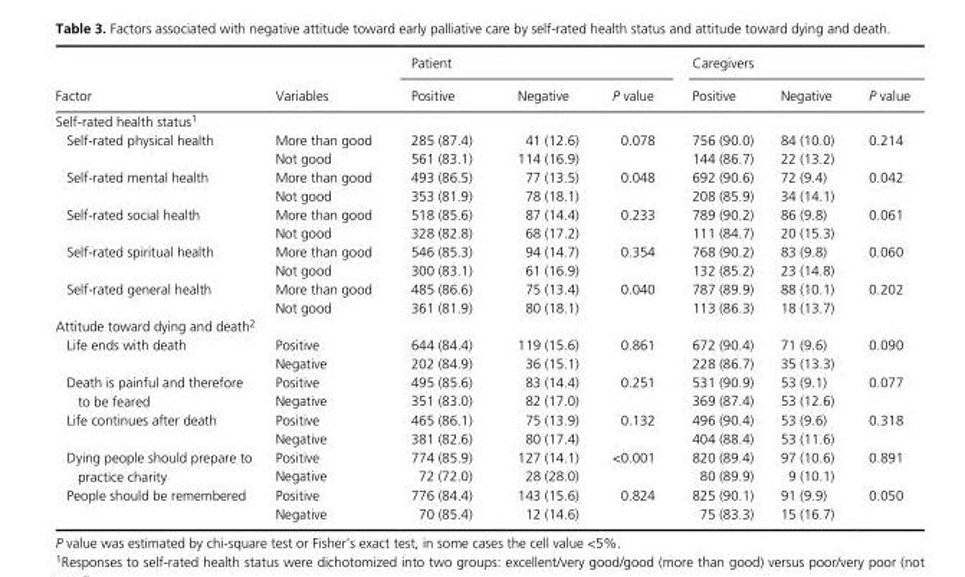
<table><thead><tr><td rowspan="2">Factor</td><td rowspan="2">Variables</td><td colspan="3">Patient</td><td colspan="3">Caregivers</td></tr><tr><td>Positive</td><td>Negative</td><td>P value</td><td>Positive</td><td>Negative</td><td>P value</td></tr></thead><tbody><tr><td colspan="8">Self- rated health status1</td></tr><tr><td rowspan="2">Self- rated physical health</td><td>More than good</td><td>285 (87.4)</td><td>41 (12.6)</td><td>0.078</td><td>756 (90.0)</td><td>84 (10.0)</td><td>0.214</td></tr><tr><td>Not good</td><td>561 (83.1)</td><td>114 (16.9)</td><td></td><td>144 (86.7)</td><td>22 (13.2)</td><td></td></tr><tr><td rowspan="2">Self- rated mental health</td><td>More than good</td><td>493 (86.5)</td><td>77 (13.5)</td><td>0.048</td><td>692 (90.6)</td><td>72 (9.4)</td><td>0.042</td></tr><tr><td>Not good</td><td>353 (81.9)</td><td>78 (18.1)</td><td></td><td>208 (85.9)</td><td>34 (14.1)</td><td></td></tr><tr><td rowspan="2">Self- rated social health</td><td>More than good</td><td>518 (85.6)</td><td>87 (14.4)</td><td>0.233</td><td>789 (90.2)</td><td>86 (9.8)</td><td>0.061</td></tr><tr><td>Not good</td><td>328 (82.8)</td><td>68 (17.2)</td><td></td><td>111 (84.7)</td><td>20 (15.3)</td><td></td></tr><tr><td rowspan="2">Self- rated spiritual health</td><td>More than good</td><td>546 (85.3)</td><td>94 (14.7)</td><td>0.354</td><td>768 (90.2)</td><td>83 (9.8)</td><td>0.060</td></tr><tr><td>Not good</td><td>300 (83.1)</td><td>61 (16.9)</td><td></td><td>132 (85.2)</td><td>23 (14.8)</td><td></td></tr><tr><td rowspan="2">Self- rated general health</td><td>More than good</td><td>485 (86.6)</td><td>75 (13.4)</td><td>0.040</td><td>787 (89.9)</td><td>88 (10.1)</td><td>0.202</td></tr><tr><td>Not good</td><td>361 (81.9)</td><td>80 (18.1)</td><td></td><td>113 (86.3)</td><td>18 (13.7)</td><td></td></tr><tr><td colspan="8">Attitude toward dying and death2</td></tr><tr><td rowspan="2">Life ends with death</td><td>Positive</td><td>644 (84.4)</td><td>119 (15.6)</td><td>0.861</td><td>672 (90.4)</td><td>71 (9.6)</td><td>0.090</td></tr><tr><td>Negative</td><td>202 (84.9)</td><td>36 (15.1)</td><td></td><td>228 (86.7)</td><td>35 (13.3)</td><td></td></tr><tr><td rowspan="2">Death is painful and therefore to be feared</td><td>Positive</td><td>495 (85.6)</td><td>83 (14.4)</td><td>0.251</td><td>531 (90.9)</td><td>53 (9.1)</td><td>0.077</td></tr><tr><td>Negative</td><td>351 (83.0)</td><td>82 (17.0)</td><td></td><td>369 (87.4)</td><td>53 (12.6)</td><td></td></tr><tr><td rowspan="2">Life continues after death</td><td>Positive</td><td>465 (86.1)</td><td>75 (13.9)</td><td>0.132</td><td>496 (90.4)</td><td>53 (9.6)</td><td>0.318</td></tr><tr><td>Negative</td><td>381 (82.6)</td><td>80 (17.4)</td><td></td><td>404 (88.4)</td><td>53 (11.6)</td><td></td></tr><tr><td rowspan="2">Dying people should prepare to practice charity</td><td>Positive</td><td>774 (85.9)</td><td>127 (14.1)</td><td>&lt;0.001</td><td>820 (89.4)</td><td>97 (10.6)</td><td>0.891</td></tr><tr><td>Negative</td><td>72 (72.0)</td><td>28 (28.0)</td><td></td><td>80 (89.9)</td><td>9 (10.1)</td><td></td></tr><tr><td rowspan="2">People should be remembered</td><td>Positive</td><td>776 (84.4)</td><td>143 (15.6)</td><td>0.824</td><td>825 (90.1)</td><td>91 (9.9)</td><td>0.050</td></tr><tr><td>Negative</td><td>70 (85.4)</td><td>12 (14.6)</td><td></td><td>75 (83.3)</td><td>15 (16.7)</td><td></td></tr></tbody></table>